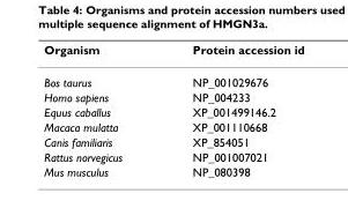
<table><thead><tr><td>Organism</td><td>Protein accession id</td></tr></thead><tbody><tr><td>Bos taurus</td><td>NP_001029676</td></tr><tr><td>Homo sapiens</td><td>NP_004233</td></tr><tr><td>Equus caballus</td><td>XP_001499146.2</td></tr><tr><td>Macaca mulatta</td><td>XP_001110668</td></tr><tr><td>Canis familiaris</td><td>XP_854051</td></tr><tr><td>Rattus norvegicus</td><td>NP_001007021</td></tr><tr><td>Mus musculus</td><td>NP_080398</td></tr></tbody></table>